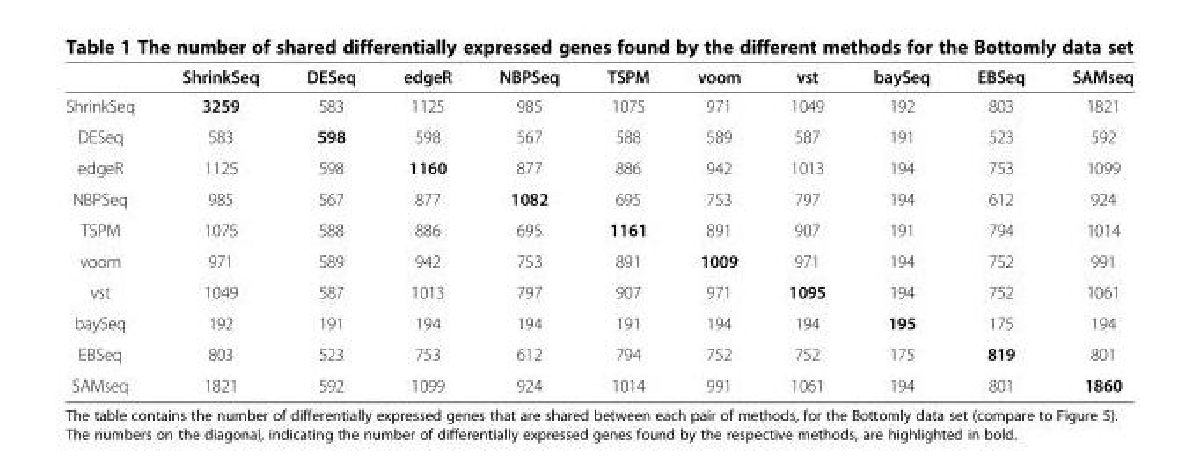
<table><thead><tr><td></td><td>ShrinkSeq</td><td>DESeq</td><td>edgeR</td><td>NBPSeq</td><td>TSPM</td><td>voom</td><td>vst</td><td>baySeq</td><td>EBSeq</td><td>SAMseq</td></tr></thead><tbody><tr><td>ShrinkSeq</td><td>3259</td><td>583</td><td>1125</td><td>985</td><td>1075</td><td>971</td><td>1049</td><td>192</td><td>803</td><td>1821</td></tr><tr><td>DESeq</td><td>583</td><td>598</td><td>598</td><td>567</td><td>588</td><td>589</td><td>587</td><td>191</td><td>523</td><td>592</td></tr><tr><td>edgeR</td><td>1125</td><td>598</td><td>1160</td><td>877</td><td>886</td><td>942</td><td>1013</td><td>194</td><td>753</td><td>1099</td></tr><tr><td>NBPSeq</td><td>985</td><td>567</td><td>877</td><td>1082</td><td>695</td><td>753</td><td>797</td><td>194</td><td>612</td><td>924</td></tr><tr><td>TSPM</td><td>1075</td><td>588</td><td>886</td><td>695</td><td>1161</td><td>891</td><td>907</td><td>191</td><td>794</td><td>1014</td></tr><tr><td>voom</td><td>971</td><td>589</td><td>942</td><td>753</td><td>891</td><td>1009</td><td>971</td><td>194</td><td>752</td><td>991</td></tr><tr><td>vst</td><td>1049</td><td>587</td><td>1013</td><td>797</td><td>907</td><td>971</td><td>1095</td><td>194</td><td>752</td><td>1061</td></tr><tr><td>baySeq</td><td>192</td><td>191</td><td>194</td><td>194</td><td>191</td><td>194</td><td>194</td><td>195</td><td>175</td><td>194</td></tr><tr><td>EBSeq</td><td>803</td><td>523</td><td>753</td><td>612</td><td>794</td><td>752</td><td>752</td><td>175</td><td>819</td><td>801</td></tr><tr><td>SAMseq</td><td>1821</td><td>592</td><td>1099</td><td>924</td><td>1014</td><td>991</td><td>1061</td><td>194</td><td>801</td><td>1860</td></tr></tbody></table>